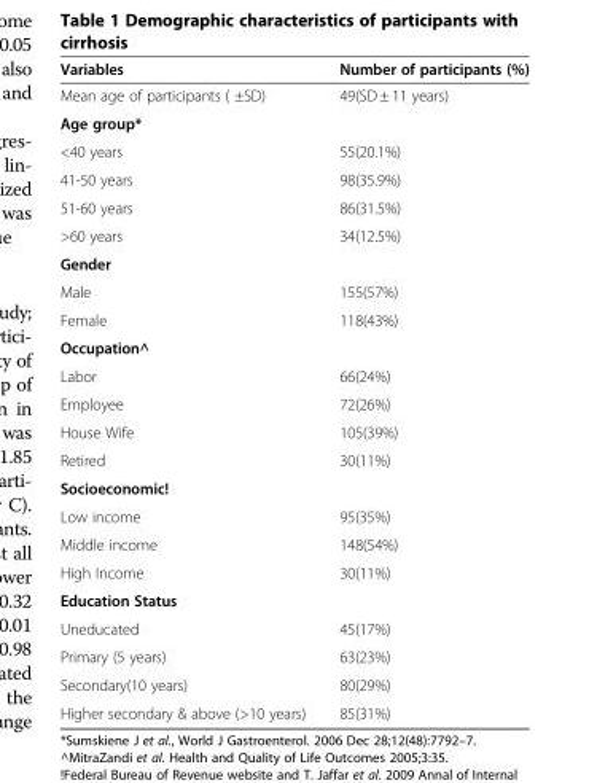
<table><thead><tr><td>Variables</td><td>Number of participants (%)</td></tr></thead><tbody><tr><td>Mean age of participants ( ±SD)</td><td>49(SD ± 11 years)</td></tr><tr><td colspan="2">Age group*</td></tr><tr><td>&lt;40 years</td><td>55(20.1%)</td></tr><tr><td>41-50 years</td><td>98(35.9%)</td></tr><tr><td>51-60 years</td><td>86(31.5%)</td></tr><tr><td>&gt;60 years</td><td>34(12.5%)</td></tr><tr><td colspan="2">Gender</td></tr><tr><td>Male</td><td>155(57%)</td></tr><tr><td>Female</td><td>118(43%)</td></tr><tr><td colspan="2">Occupation^</td></tr><tr><td>Labor</td><td>66(24%)</td></tr><tr><td>Employee</td><td>72(26%)</td></tr><tr><td>House Wife</td><td>105(39%)</td></tr><tr><td>Retired</td><td>30(11%)</td></tr><tr><td colspan="2">Socioeconomic!</td></tr><tr><td>Low income</td><td>95(35%)</td></tr><tr><td>Middle income</td><td>148(54%)</td></tr><tr><td>High Income</td><td>30(11%)</td></tr><tr><td colspan="2">Education Status</td></tr><tr><td>Uneducated</td><td>45(17%)</td></tr><tr><td>Primary (5 years)</td><td>63(23%)</td></tr><tr><td>Secondary(10 years)</td><td>80(29%)</td></tr><tr><td>Higher secondary &amp; above (&gt;10 years)</td><td>85(31%)</td></tr></tbody></table>